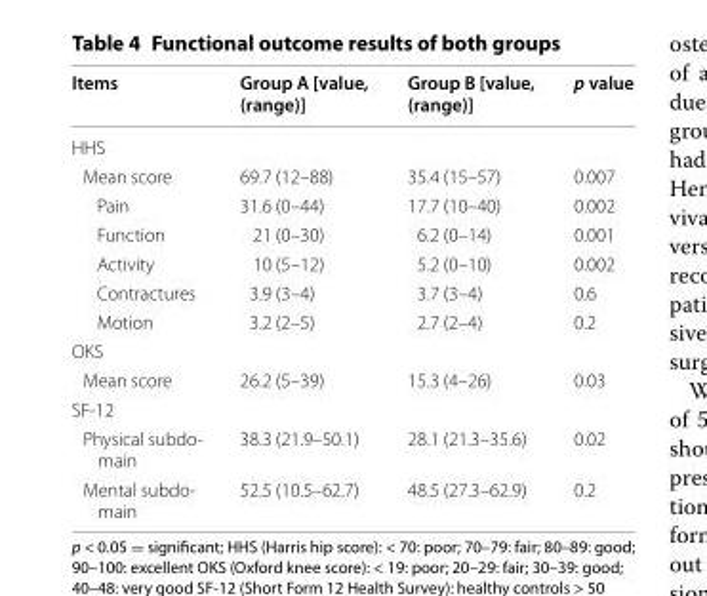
<table><thead><tr><td>Items</td><td>Group A [value, (range)]</td><td>Group B [value, (range)]</td><td>p value</td></tr></thead><tbody><tr><td colspan="4">HHS</td></tr><tr><td>Mean score</td><td>69.7 (12–88)</td><td>35.4 (15–57)</td><td>0.007</td></tr><tr><td>Pain</td><td>31.6 (0–44)</td><td>17.7 (10–40)</td><td>0.002</td></tr><tr><td>Function</td><td>21 (0–30)</td><td>6.2 (0–14)</td><td>0.001</td></tr><tr><td>Activity</td><td>10 (5–12)</td><td>5.2 (0–10)</td><td>0.002</td></tr><tr><td>Contractures</td><td>3.9 (3–4)</td><td>3.7 (3–4)</td><td>0.6</td></tr><tr><td>Motion</td><td>3.2 (2–5)</td><td>2.7 (2–4)</td><td>0.2</td></tr><tr><td colspan="4">OKS</td></tr><tr><td>Mean score</td><td>26.2 (5–39)</td><td>15.3 (4–26)</td><td>0.03</td></tr><tr><td colspan="4">SF‑12</td></tr><tr><td>Physical subdo‑ main</td><td>38.3 (21.9–50.1)</td><td>28.1 (21.3–35.6)</td><td>0.02</td></tr><tr><td>Mental subdo‑ main</td><td>52.5 (10.5–62.7)</td><td>48.5 (27.3–62.9)</td><td>0.2</td></tr></tbody></table>